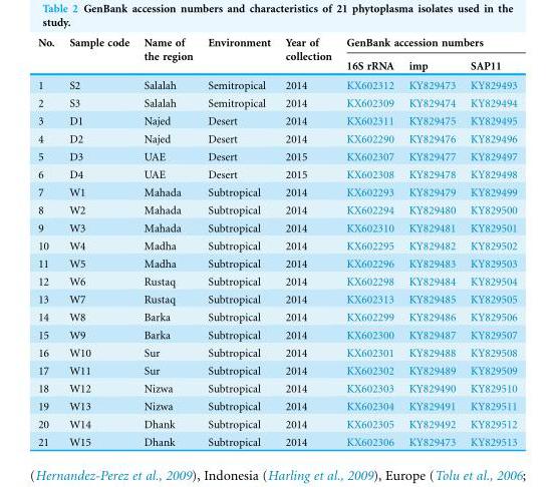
<table><thead><tr><td rowspan="2">No.</td><td rowspan="2">Sample code</td><td rowspan="2">Name of the region</td><td rowspan="2">Environment</td><td rowspan="2">Year of collection</td><td colspan="3">GenBank accession numbers</td></tr><tr><td>16S rRNA</td><td>imp</td><td>SAP11</td></tr></thead><tbody><tr><td>1</td><td>S2</td><td>Salalah</td><td>Semitropical</td><td>2014</td><td>KX602312</td><td>KY829473</td><td>KY829493</td></tr><tr><td>2</td><td>S3</td><td>Salalah</td><td>Semitropical</td><td>2014</td><td>KX602309</td><td>KY829474</td><td>KY829494</td></tr><tr><td>3</td><td>D1</td><td>Najed</td><td>Desert</td><td>2014</td><td>KX602311</td><td>KY829475</td><td>KY829495</td></tr><tr><td>4</td><td>D2</td><td>Najed</td><td>Desert</td><td>2014</td><td>KX602290</td><td>KY829476</td><td>KY829496</td></tr><tr><td>5</td><td>D3</td><td>UAE</td><td>Desert</td><td>2015</td><td>KX602307</td><td>KY829477</td><td>KY829497</td></tr><tr><td>6</td><td>D4</td><td>UAE</td><td>Desert</td><td>2015</td><td>KX602308</td><td>KY829478</td><td>KY829498</td></tr><tr><td>7</td><td>W1</td><td>Mahada</td><td>Subtropical</td><td>2014</td><td>KX602293</td><td>KY829479</td><td>KY829499</td></tr><tr><td>8</td><td>W2</td><td>Mahada</td><td>Subtropical</td><td>2014</td><td>KX602294</td><td>KY829480</td><td>KY829500</td></tr><tr><td>9</td><td>W3</td><td>Mahada</td><td>Subtropical</td><td>2014</td><td>KX602310</td><td>KY829481</td><td>KY829501</td></tr><tr><td>10</td><td>W4</td><td>Madha</td><td>Subtropical</td><td>2014</td><td>KX602295</td><td>KY829482</td><td>KY829502</td></tr><tr><td>11</td><td>W5</td><td>Madha</td><td>Subtropical</td><td>2014</td><td>KX602296</td><td>KY829483</td><td>KY829503</td></tr><tr><td>12</td><td>W6</td><td>Rustaq</td><td>Subtropical</td><td>2014</td><td>KX602298</td><td>KY829484</td><td>KY829504</td></tr><tr><td>13</td><td>W7</td><td>Rustaq</td><td>Subtropical</td><td>2014</td><td>KX602313</td><td>KY829485</td><td>KY829505</td></tr><tr><td>14</td><td>W8</td><td>Barka</td><td>Subtropical</td><td>2014</td><td>KX602299</td><td>KY829486</td><td>KY829506</td></tr><tr><td>15</td><td>W9</td><td>Barka</td><td>Subtropical</td><td>2014</td><td>KX602300</td><td>KY829487</td><td>KY829507</td></tr><tr><td>16</td><td>W10</td><td>Sur</td><td>Subtropical</td><td>2014</td><td>KX602301</td><td>KY829488</td><td>KY829508</td></tr><tr><td>17</td><td>W11</td><td>Sur</td><td>Subtropical</td><td>2014</td><td>KX602302</td><td>KY829489</td><td>KY829509</td></tr><tr><td>18</td><td>W12</td><td>Nizwa</td><td>Subtropical</td><td>2014</td><td>KX602303</td><td>KY829490</td><td>KY829510</td></tr><tr><td>19</td><td>W13</td><td>Nizwa</td><td>Subtropical</td><td>2014</td><td>KX602304</td><td>KY829491</td><td>KY829511</td></tr><tr><td>20</td><td>W14</td><td>Dhank</td><td>Subtropical</td><td>2014</td><td>KX602305</td><td>KY829492</td><td>KY829512</td></tr><tr><td>21</td><td>W15</td><td>Dhank</td><td>Subtropical</td><td>2014</td><td>KX602306</td><td>KY829473</td><td>KY829513</td></tr></tbody></table>